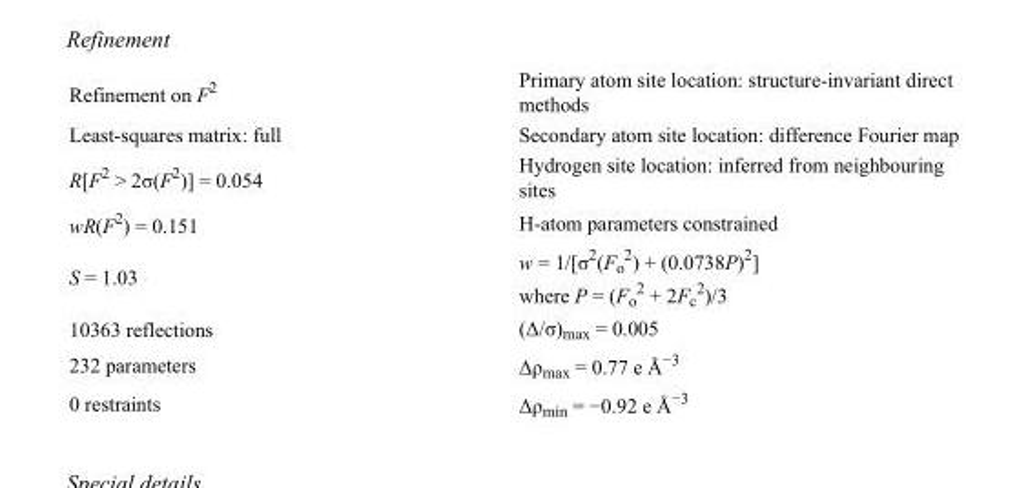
<table><tbody><tr><td>Refinement on F<sup>2</sup></td><td>Primary atom site location: structure-invariant direct methods</td></tr><tr><td>Least-squares matrix: full</td><td>Secondary atom site location: difference Fourier map</td></tr><tr><td>R[F<sup>2</sup> &gt; 2σ(F<sup>2</sup>)] = 0.054</td><td>Hydrogen site location: inferred from neighbouring sites</td></tr><tr><td>wR(F<sup>2</sup>) = 0.151</td><td>H-atom parameters constrained</td></tr><tr><td>S = 1.03</td><td>w = 1/[σ<sup>2</sup>(F<sub>o</sub> <sup>2</sup>) + (0.0738P)<sup>2</sup>] where P = (F<sub>o</sub> <sup>2</sup> + 2F<sub>c</sub> <sup>2</sup>)/3</td></tr><tr><td>10363 reflections</td><td>(Δ/σ)<sub>max</sub> = 0.005</td></tr><tr><td>232 parameters</td><td>Δρ<sub>max</sub> = 0.77 e Å<sup>−3</sup></td></tr><tr><td>0 restraints</td><td>Δρ<sub>min</sub> = −0.92 e Å<sup>−3</sup></td></tr></tbody></table>